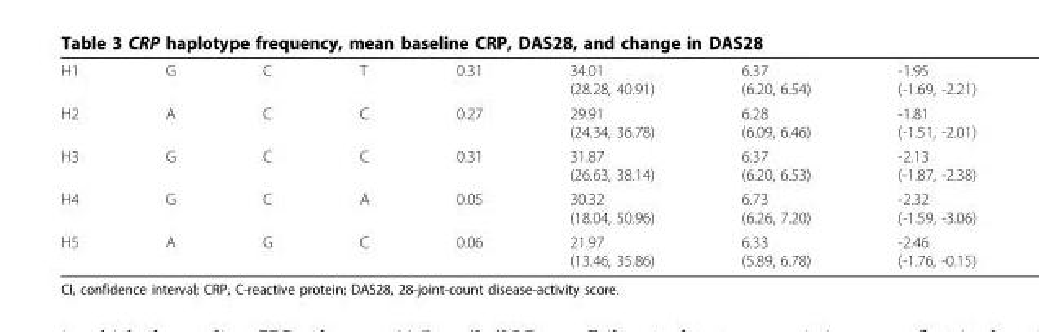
<table><tbody><tr><td>H1</td><td>G</td><td>C</td><td>T</td><td>0.31</td><td>34.01 (28.28, 40.91)</td><td>6.37 (6.20, 6.54)</td><td>-1.95 (-1.69, -2.21)</td></tr><tr><td>H2</td><td>A</td><td>C</td><td>C</td><td>0.27</td><td>29.91 (24.34, 36.78)</td><td>6.28 (6.09, 6.46)</td><td>-1.81 (-1.51, -2.01)</td></tr><tr><td>H3</td><td>G</td><td>C</td><td>C</td><td>0.31</td><td>31.87 (26.63, 38.14)</td><td>6.37 (6.20, 6.53)</td><td>-2.13 (-1.87, -2.38)</td></tr><tr><td>H4</td><td>G</td><td>C</td><td>A</td><td>0.05</td><td>30.32 (18.04, 50.96)</td><td>6.73 (6.26, 7.20)</td><td>-2.32 (-1.59, -3.06)</td></tr><tr><td>H5</td><td>A</td><td>G</td><td>C</td><td>0.06</td><td>21.97 (13.46, 35.86)</td><td>6.33 (5.89, 6.78)</td><td>-2.46 (-1.76, -0.15)</td></tr></tbody></table>